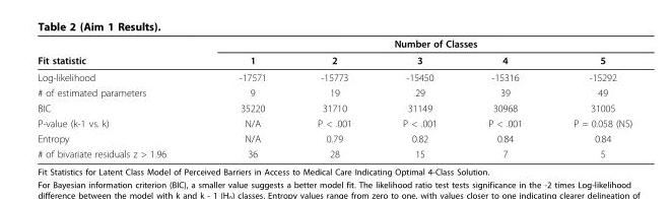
<table><thead><tr><td rowspan="2">Fit statistic</td><td colspan="5">Number of Classes</td></tr><tr><td>1</td><td>2</td><td>3</td><td>4</td><td>5</td></tr></thead><tbody><tr><td>Log-likelihood</td><td>-17571</td><td>-15773</td><td>-15450</td><td>-15316</td><td>-15292</td></tr><tr><td># of estimated parameters</td><td>9</td><td>19</td><td>29</td><td>39</td><td>49</td></tr><tr><td>BIC</td><td>35220</td><td>31710</td><td>31149</td><td>30968</td><td>31005</td></tr><tr><td>P-value (k-1 vs. k)</td><td>N/A</td><td>P &lt; .001</td><td>P &lt; .001</td><td>P &lt; .001</td><td>P = 0.058 (NS)</td></tr><tr><td>Entropy</td><td>N/A</td><td>0.79</td><td>0.82</td><td>0.84</td><td>0.84</td></tr><tr><td># of bivariate residuals z &gt; 1.96</td><td>36</td><td>28</td><td>15</td><td>7</td><td>5</td></tr></tbody></table>